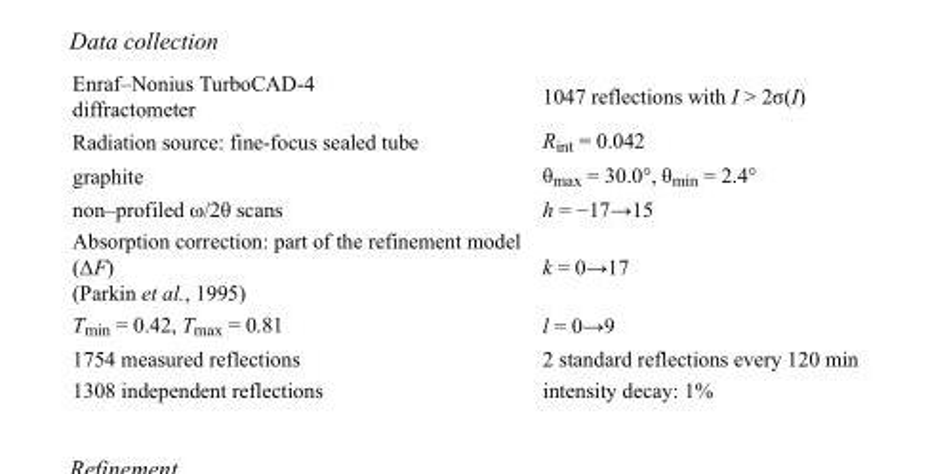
<table><tbody><tr><td>Enraf–Nonius TurboCAD-4 diffractometer</td><td>1047 reflections with I &gt; 2σ(I)</td></tr><tr><td>Radiation source: fine-focus sealed tube</td><td>R<sub>int</sub> = 0.042</td></tr><tr><td>graphite</td><td>θ<sub>max</sub> = 30.0°, θ<sub>min</sub> = 2.4°</td></tr><tr><td>non–profiled ω/2θ scans</td><td>h = −17→15</td></tr><tr><td>Absorption correction: part of the refinement model (ΔF) (Parkin et al., 1995)</td><td>k = 0→17</td></tr><tr><td>T<sub>min</sub> = 0.42, T<sub>max</sub> = 0.81</td><td>l = 0→9</td></tr><tr><td>1754 measured reflections</td><td>2 standard reflections every 120 min</td></tr><tr><td>1308 independent reflections</td><td>intensity decay: 1%</td></tr></tbody></table>